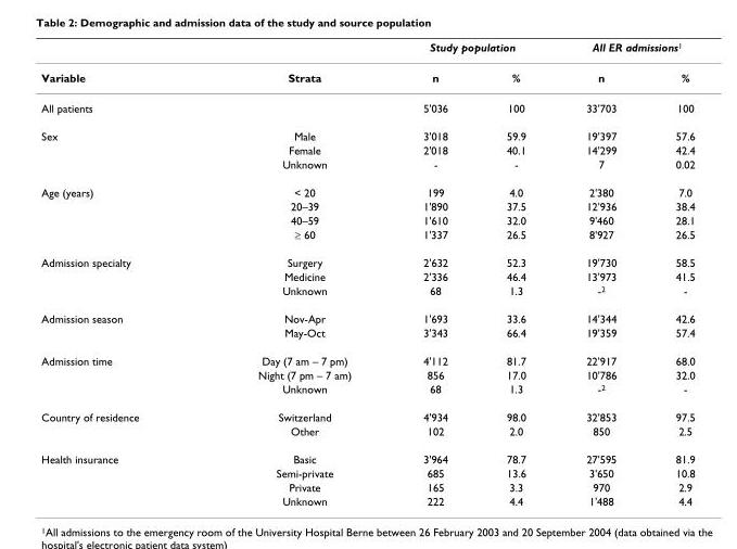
<table><thead><tr><td rowspan="2">Variable</td><td rowspan="2">Strata</td><td colspan="2">Study population</td><td colspan="2">All ER admissions1</td></tr><tr><td>n</td><td>%</td><td>n</td><td>%</td></tr></thead><tbody><tr><td>All patients</td><td></td><td>5&#x27;036</td><td>100</td><td>33&#x27;703</td><td>100</td></tr><tr><td rowspan="3">Sex</td><td>Male</td><td>3&#x27;018</td><td>59.9</td><td>19&#x27;397</td><td>57.6</td></tr><tr><td>Female</td><td>2&#x27;018</td><td>40.1</td><td>14&#x27;299</td><td>42.4</td></tr><tr><td>Unknown</td><td>-</td><td>-</td><td>7</td><td>0.02</td></tr><tr><td rowspan="4">Age (years)</td><td>&lt; 20</td><td>199</td><td>4.0</td><td>2&#x27;380</td><td>7.0</td></tr><tr><td>20–39</td><td>1&#x27;890</td><td>37.5</td><td>12&#x27;936</td><td>38.4</td></tr><tr><td>40–59</td><td>1&#x27;610</td><td>32.0</td><td>9&#x27;460</td><td>28.1</td></tr><tr><td>≥ 60</td><td>1&#x27;337</td><td>26.5</td><td>8&#x27;927</td><td>26.5</td></tr><tr><td rowspan="3">Admission specialty</td><td>Surgery</td><td>2&#x27;632</td><td>52.3</td><td>19&#x27;730</td><td>58.5</td></tr><tr><td>Medicine</td><td>2&#x27;336</td><td>46.4</td><td>13&#x27;973</td><td>41.5</td></tr><tr><td>Unknown</td><td>68</td><td>1.3</td><td>-2</td><td>-</td></tr><tr><td rowspan="2">Admission season</td><td>Nov-Apr</td><td>1&#x27;693</td><td>33.6</td><td>14&#x27;344</td><td>42.6</td></tr><tr><td>May-Oct</td><td>3&#x27;343</td><td>66.4</td><td>19&#x27;359</td><td>57.4</td></tr><tr><td rowspan="3">Admission time</td><td>Day (7 am – 7 pm)</td><td>4&#x27;112</td><td>81.7</td><td>22&#x27;917</td><td>68.0</td></tr><tr><td>Night (7 pm – 7 am)</td><td>856</td><td>17.0</td><td>10&#x27;786</td><td>32.0</td></tr><tr><td>Unknown</td><td>68</td><td>1.3</td><td>-2</td><td>-</td></tr><tr><td rowspan="2">Country of residence</td><td>Switzerland</td><td>4&#x27;934</td><td>98.0</td><td>32&#x27;853</td><td>97.5</td></tr><tr><td>Other</td><td>102</td><td>2.0</td><td>850</td><td>2.5</td></tr><tr><td rowspan="4">Health insurance</td><td>Basic</td><td>3&#x27;964</td><td>78.7</td><td>27&#x27;595</td><td>81.9</td></tr><tr><td>Semi-private</td><td>685</td><td>13.6</td><td>3&#x27;650</td><td>10.8</td></tr><tr><td>Private</td><td>165</td><td>3.3</td><td>970</td><td>2.9</td></tr><tr><td>Unknown</td><td>222</td><td>4.4</td><td>1&#x27;488</td><td>4.4</td></tr></tbody></table>